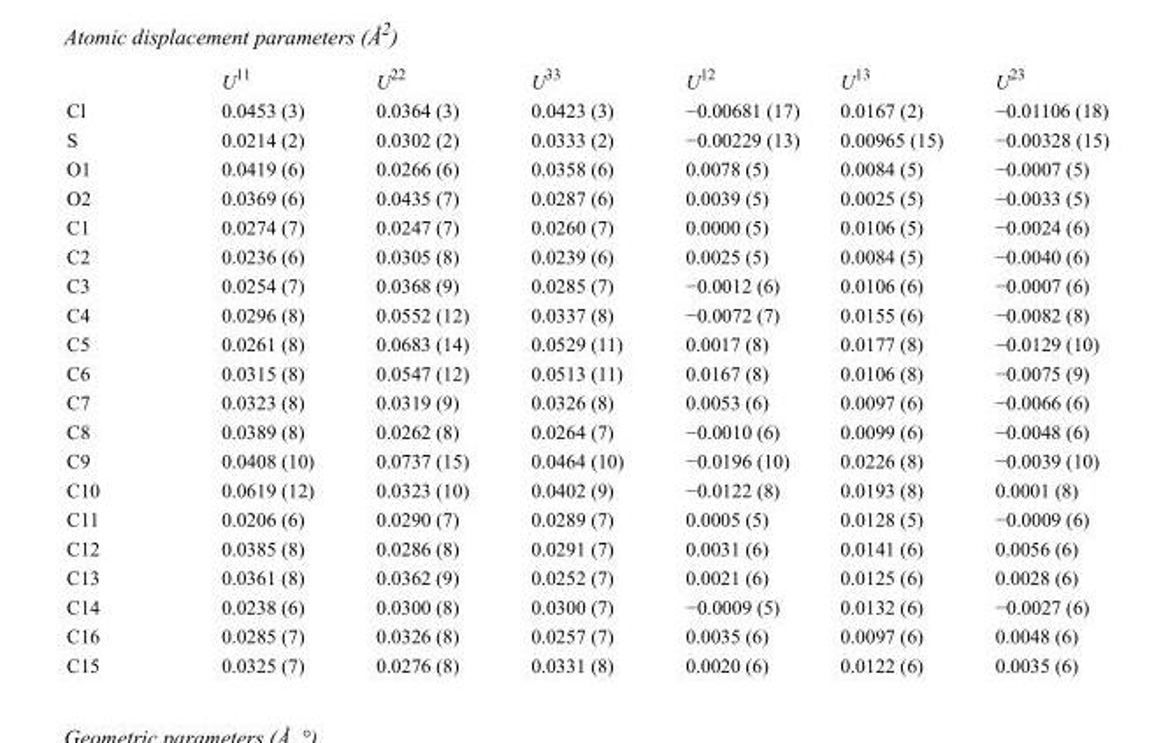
<table><thead><tr><td></td><td>U<sup>11</sup></td><td>U<sup>22</sup></td><td>U<sup>33</sup></td><td>U<sup>12</sup></td><td>U<sup>13</sup></td><td>U<sup>23</sup></td></tr></thead><tbody><tr><td>Cl</td><td>0.0453 (3)</td><td>0.0364 (3)</td><td>0.0423 (3)</td><td>−0.00681 (17)</td><td>0.0167 (2)</td><td>−0.01106 (18)</td></tr><tr><td>S</td><td>0.0214 (2)</td><td>0.0302 (2)</td><td>0.0333 (2)</td><td>−0.00229 (13)</td><td>0.00965 (15)</td><td>−0.00328 (15)</td></tr><tr><td>O1</td><td>0.0419 (6)</td><td>0.0266 (6)</td><td>0.0358 (6)</td><td>0.0078 (5)</td><td>0.0084 (5)</td><td>−0.0007 (5)</td></tr><tr><td>O2</td><td>0.0369 (6)</td><td>0.0435 (7)</td><td>0.0287 (6)</td><td>0.0039 (5)</td><td>0.0025 (5)</td><td>−0.0033 (5)</td></tr><tr><td>C1</td><td>0.0274 (7)</td><td>0.0247 (7)</td><td>0.0260 (7)</td><td>0.0000 (5)</td><td>0.0106 (5)</td><td>−0.0024 (6)</td></tr><tr><td>C2</td><td>0.0236 (6)</td><td>0.0305 (8)</td><td>0.0239 (6)</td><td>0.0025 (5)</td><td>0.0084 (5)</td><td>−0.0040 (6)</td></tr><tr><td>C3</td><td>0.0254 (7)</td><td>0.0368 (9)</td><td>0.0285 (7)</td><td>−0.0012 (6)</td><td>0.0106 (6)</td><td>−0.0007 (6)</td></tr><tr><td>C4</td><td>0.0296 (8)</td><td>0.0552 (12)</td><td>0.0337 (8)</td><td>−0.0072 (7)</td><td>0.0155 (6)</td><td>−0.0082 (8)</td></tr><tr><td>C5</td><td>0.0261 (8)</td><td>0.0683 (14)</td><td>0.0529 (11)</td><td>0.0017 (8)</td><td>0.0177 (8)</td><td>−0.0129 (10)</td></tr><tr><td>C6</td><td>0.0315 (8)</td><td>0.0547 (12)</td><td>0.0513 (11)</td><td>0.0167 (8)</td><td>0.0106 (8)</td><td>−0.0075 (9)</td></tr><tr><td>C7</td><td>0.0323 (8)</td><td>0.0319 (9)</td><td>0.0326 (8)</td><td>0.0053 (6)</td><td>0.0097 (6)</td><td>−0.0066 (6)</td></tr><tr><td>C8</td><td>0.0389 (8)</td><td>0.0262 (8)</td><td>0.0264 (7)</td><td>−0.0010 (6)</td><td>0.0099 (6)</td><td>−0.0048 (6)</td></tr><tr><td>C9</td><td>0.0408 (10)</td><td>0.0737 (15)</td><td>0.0464 (10)</td><td>−0.0196 (10)</td><td>0.0226 (8)</td><td>−0.0039 (10)</td></tr><tr><td>C10</td><td>0.0619 (12)</td><td>0.0323 (10)</td><td>0.0402 (9)</td><td>−0.0122 (8)</td><td>0.0193 (8)</td><td>0.0001 (8)</td></tr><tr><td>C11</td><td>0.0206 (6)</td><td>0.0290 (7)</td><td>0.0289 (7)</td><td>0.0005 (5)</td><td>0.0128 (5)</td><td>−0.0009 (6)</td></tr><tr><td>C12</td><td>0.0385 (8)</td><td>0.0286 (8)</td><td>0.0291 (7)</td><td>0.0031 (6)</td><td>0.0141 (6)</td><td>0.0056 (6)</td></tr><tr><td>C13</td><td>0.0361 (8)</td><td>0.0362 (9)</td><td>0.0252 (7)</td><td>0.0021 (6)</td><td>0.0125 (6)</td><td>0.0028 (6)</td></tr><tr><td>C14</td><td>0.0238 (6)</td><td>0.0300 (8)</td><td>0.0300 (7)</td><td>−0.0009 (5)</td><td>0.0132 (6)</td><td>−0.0027 (6)</td></tr><tr><td>C16</td><td>0.0285 (7)</td><td>0.0326 (8)</td><td>0.0257 (7)</td><td>0.0035 (6)</td><td>0.0097 (6)</td><td>0.0048 (6)</td></tr><tr><td>C15</td><td>0.0325 (7)</td><td>0.0276 (8)</td><td>0.0331 (8)</td><td>0.0020 (6)</td><td>0.0122 (6)</td><td>0.0035 (6)</td></tr></tbody></table>